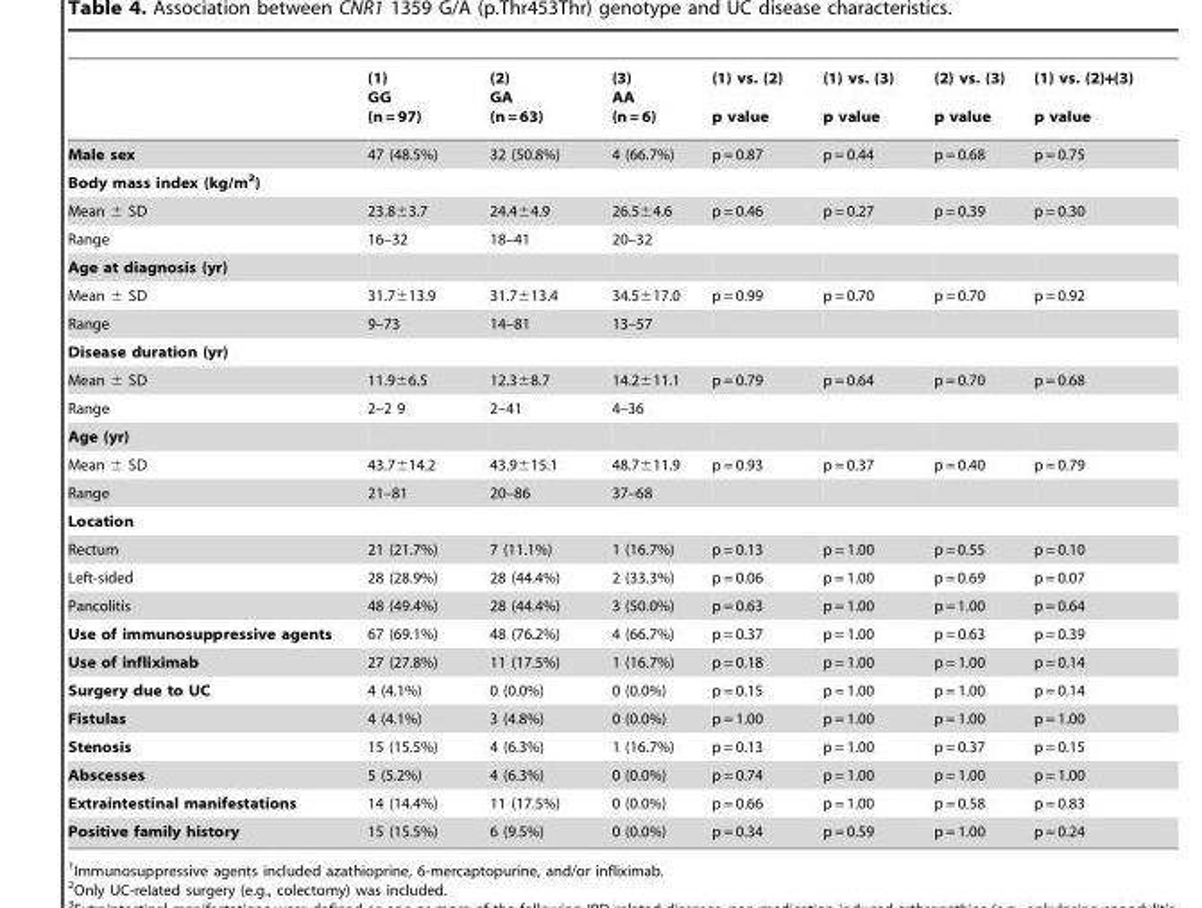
<table><thead><tr><td></td><td>(1) GG (n = 97)</td><td>(2) GA (n = 63)</td><td>(3) AA (n = 6)</td><td>(1) vs. (2) p value</td><td>(1) vs. (3) p value</td><td>(2) vs. (3) p value</td><td>(1) vs. (2)+(3) p value</td></tr></thead><tbody><tr><td>Male sex</td><td>47 (48.5%)</td><td>32 (50.8%)</td><td>4 (66.7%)</td><td>p = 0.87</td><td>p = 0.44</td><td>p = 0.68</td><td>p = 0.75</td></tr><tr><td colspan="8">Body mass index (kg/m<sup>2</sup>)</td></tr><tr><td>Mean ± SD</td><td>23.8±3.7</td><td>24.4±4.9</td><td>26.5±4.6</td><td>p = 0.46</td><td>p = 0.27</td><td>p = 0.39</td><td>p = 0.30</td></tr><tr><td>Range</td><td>16–32</td><td>18–41</td><td>20–32</td><td></td><td></td><td></td><td></td></tr><tr><td colspan="8">Age at diagnosis (yr)</td></tr><tr><td>Mean ± SD</td><td>31.7±13.9</td><td>31.7±13.4</td><td>34.5±17.0</td><td>p = 0.99</td><td>p = 0.70</td><td>p = 0.70</td><td>p = 0.92</td></tr><tr><td>Range</td><td>9–73</td><td>14–81</td><td>13–57</td><td></td><td></td><td></td><td></td></tr><tr><td colspan="8">Disease duration (yr)</td></tr><tr><td>Mean ± SD</td><td>11.9±6.5</td><td>12.3±8.7</td><td>14.2±11.1</td><td>p = 0.79</td><td>p = 0.64</td><td>p = 0.70</td><td>p = 0.68</td></tr><tr><td>Range</td><td>2–2 9</td><td>2–41</td><td>4–36</td><td></td><td></td><td></td><td></td></tr><tr><td colspan="8">Age (yr)</td></tr><tr><td>Mean ± SD</td><td>43.7±14.2</td><td>43.9±15.1</td><td>48.7±11.9</td><td>p = 0.93</td><td>p = 0.37</td><td>p = 0.40</td><td>p = 0.79</td></tr><tr><td>Range</td><td>21–81</td><td>20–86</td><td>37–68</td><td></td><td></td><td></td><td></td></tr><tr><td colspan="8">Location</td></tr><tr><td>Rectum</td><td>21 (21.7%)</td><td>7 (11.1%)</td><td>1 (16.7%)</td><td>p = 0.13</td><td>p = 1.00</td><td>p = 0.55</td><td>p = 0.10</td></tr><tr><td>Left-sided</td><td>28 (28.9%)</td><td>28 (44.4%)</td><td>2 (33.3%)</td><td>p = 0.06</td><td>p = 1.00</td><td>p = 0.69</td><td>p = 0.07</td></tr><tr><td>Pancolitis</td><td>48 (49.4%)</td><td>28 (44.4%)</td><td>3 (50.0%)</td><td>p = 0.63</td><td>p = 1.00</td><td>p = 1.00</td><td>p = 0.64</td></tr><tr><td>Use of immunosuppressive agents</td><td>67 (69.1%)</td><td>48 (76.2%)</td><td>4 (66.7%)</td><td>p = 0.37</td><td>p = 1.00</td><td>p = 0.63</td><td>p = 0.39</td></tr><tr><td>Use of infliximab</td><td>27 (27.8%)</td><td>11 (17.5%)</td><td>1 (16.7%)</td><td>p = 0.18</td><td>p = 1.00</td><td>p = 1.00</td><td>p = 0.14</td></tr><tr><td>Surgery due to UC</td><td>4 (4.1%)</td><td>0 (0.0%)</td><td>0 (0.0%)</td><td>p = 0.15</td><td>p = 1.00</td><td>p = 1.00</td><td>p = 0.14</td></tr><tr><td>Fistulas</td><td>4 (4.1%)</td><td>3 (4.8%)</td><td>0 (0.0%)</td><td>p = 1.00</td><td>p = 1.00</td><td>p = 1.00</td><td>p = 1.00</td></tr><tr><td>Stenosis</td><td>15 (15.5%)</td><td>4 (6.3%)</td><td>1 (16.7%)</td><td>p = 0.13</td><td>p = 1.00</td><td>p = 0.37</td><td>p = 0.15</td></tr><tr><td>Abscesses</td><td>5 (5.2%)</td><td>4 (6.3%)</td><td>0 (0.0%)</td><td>p = 0.74</td><td>p = 1.00</td><td>p = 1.00</td><td>p = 1.00</td></tr><tr><td>Extraintestinal manifestations</td><td>14 (14.4%)</td><td>11 (17.5%)</td><td>0 (0.0%)</td><td>p = 0.66</td><td>p = 1.00</td><td>p = 0.58</td><td>p = 0.83</td></tr><tr><td>Positive family history</td><td>15 (15.5%)</td><td>6 (9.5%)</td><td>0 (0.0%)</td><td>p = 0.34</td><td>p = 0.59</td><td>p = 1.00</td><td>p = 0.24</td></tr></tbody></table>